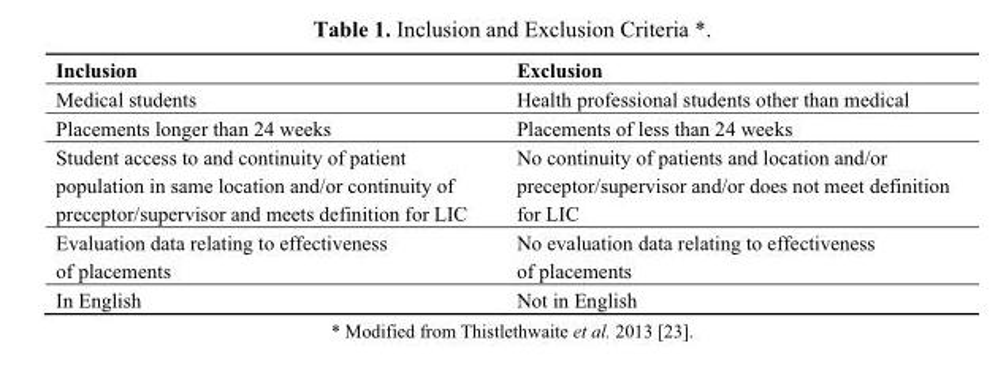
<table><thead><tr><td>Inclusion</td><td>Exclusion</td></tr></thead><tbody><tr><td>Medical students</td><td>Health professional students other than medical</td></tr><tr><td>Placements longer than 24 weeks</td><td>Placements of less than 24 weeks</td></tr><tr><td>Student access to and continuity of patient population in same location and/or continuity of preceptor/supervisor and meets definition for LIC</td><td>No continuity of patients and location and/or preceptor/supervisor and/or does not meet definition for LIC</td></tr><tr><td>Evaluation data relating to effectiveness of placements</td><td>No evaluation data relating to effectiveness of placements</td></tr><tr><td>In English</td><td>Not in English</td></tr></tbody></table>